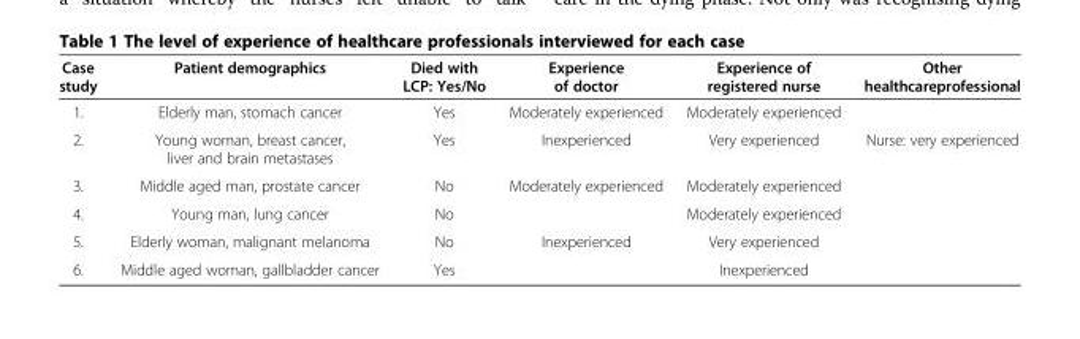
<table><thead><tr><td>Case study</td><td>Patient demographics</td><td>Died with LCP: Yes/No</td><td>Experience of doctor</td><td>Experience of registered nurse</td><td>Other healthcareprofessional</td></tr></thead><tbody><tr><td>1.</td><td>Elderly man, stomach cancer</td><td>Yes</td><td>Moderately experienced</td><td>Moderately experienced</td><td></td></tr><tr><td>2.</td><td>Young woman, breast cancer, liver and brain metastases</td><td>Yes</td><td>Inexperienced</td><td>Very experienced</td><td>Nurse: very experienced</td></tr><tr><td>3.</td><td>Middle aged man, prostate cancer</td><td>No</td><td>Moderately experienced</td><td>Moderately experienced</td><td></td></tr><tr><td>4.</td><td>Young man, lung cancer</td><td>No</td><td></td><td>Moderately experienced</td><td></td></tr><tr><td>5.</td><td>Elderly woman, malignant melanoma</td><td>No</td><td>Inexperienced</td><td>Very experienced</td><td></td></tr><tr><td>6.</td><td>Middle aged woman, gallbladder cancer</td><td>Yes</td><td></td><td>Inexperienced</td><td></td></tr></tbody></table>